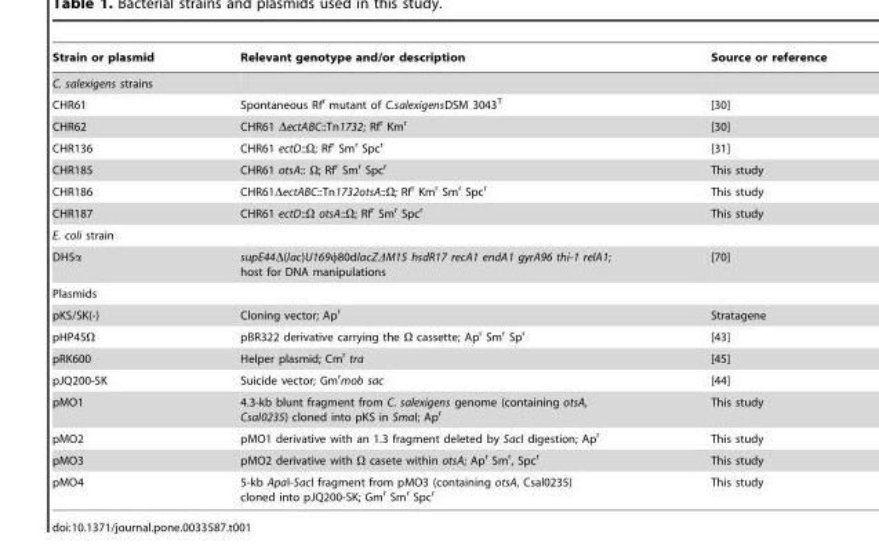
<table><thead><tr><td>Strain or plasmid</td><td>Relevant genotype and/or description</td><td>Source or reference</td></tr></thead><tbody><tr><td colspan="3">C. salexigens strains</td></tr><tr><td>CHR61</td><td>Spontaneous Rf<sup>r</sup> mutant of C.salexigensDSM 3043<sup>T</sup></td><td>[30]</td></tr><tr><td>CHR62</td><td>CHR61 ΔectABC::Tn1732; Rf<sup>r</sup> Km<sup>r</sup></td><td>[30]</td></tr><tr><td>CHR136</td><td>CHR61 ectD::Ω; Rf<sup>r</sup> Sm<sup>r</sup> Spc<sup>r</sup></td><td>[31]</td></tr><tr><td>CHR185</td><td>CHR61 otsA:: Ω; Rf<sup>r</sup> Sm<sup>r</sup> Spc<sup>r</sup></td><td>This study</td></tr><tr><td>CHR186</td><td>CHR61ΔectABC::Tn1732otsA::Ω; Rf<sup>r</sup> Km<sup>r</sup> Sm<sup>r</sup> Spc<sup>r</sup></td><td>This study</td></tr><tr><td>CHR187</td><td>CHR61 ectD::Ω otsA::Ω; Rf<sup>r</sup> Sm<sup>r</sup> Spc<sup>r</sup></td><td>This study</td></tr><tr><td colspan="3">E. coli strain</td></tr><tr><td>DH5α</td><td>supE44Δ(lac)U169φ80dlacZΔM15 hsdR17 recA1 endA1 gyrA96 thi-1 relA1; host for DNA manipulations</td><td>[70]</td></tr><tr><td colspan="3">Plasmids</td></tr><tr><td>pKS/SK(-)</td><td>Cloning vector; Ap<sup>r</sup></td><td>Stratagene</td></tr><tr><td>pHP45Ω</td><td>pBR322 derivative carrying the Ω cassette; Ap<sup>r</sup> Sm<sup>r</sup> Sp<sup>r</sup></td><td>[43]</td></tr><tr><td>pRK600</td><td>Helper plasmid; Cm<sup>r</sup> tra</td><td>[45]</td></tr><tr><td>pJQ200-SK</td><td>Suicide vector; Gm<sup>r</sup>mob sac</td><td>[44]</td></tr><tr><td>pMO1</td><td>4.3-kb blunt fragment from C. salexigens genome (containing otsA, Csal0235) cloned into pKS in SmaI; Ap<sup>r</sup></td><td>This study</td></tr><tr><td>pMO2</td><td>pMO1 derivative with an 1.3 fragment deleted by SacI digestion; Ap<sup>r</sup></td><td>This study</td></tr><tr><td>pMO3</td><td>pMO2 derivative with Ω casete within otsA; Ap<sup>r</sup> Sm<sup>r</sup>, Spc<sup>r</sup></td><td>This study</td></tr><tr><td>pMO4</td><td>5-kb ApaI-SacI fragment from pMO3 (containing otsA, Csal0235) cloned into pJQ200-SK; Gm<sup>r</sup> Sm<sup>r</sup> Spc<sup>r</sup></td><td>This study</td></tr></tbody></table>